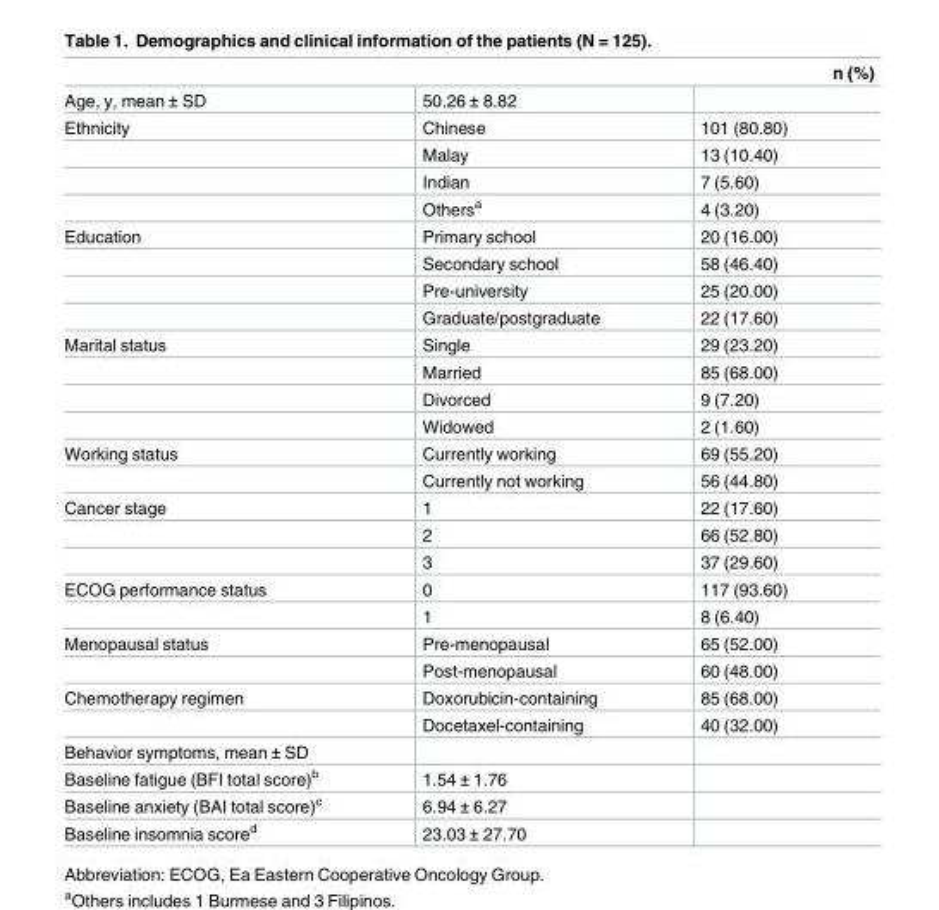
<table><thead><tr><td colspan="3">n (%)</td></tr><tr><td>Age, y, mean ± SD</td><td>50.26 ± 8.82</td><td></td></tr></thead><tbody><tr><td rowspan="4">Ethnicity</td><td>Chinese</td><td>101 (80.80)</td></tr><tr><td>Malay</td><td>13 (10.40)</td></tr><tr><td>Indian</td><td>7 (5.60)</td></tr><tr><td>Others<sup>a</sup></td><td>4 (3.20)</td></tr><tr><td rowspan="4">Education</td><td>Primary school</td><td>20 (16.00)</td></tr><tr><td>Secondary school</td><td>58 (46.40)</td></tr><tr><td>Pre-university</td><td>25 (20.00)</td></tr><tr><td>Graduate/postgraduate</td><td>22 (17.60)</td></tr><tr><td rowspan="4">Marital status</td><td>Single</td><td>29 (23.20)</td></tr><tr><td>Married</td><td>85 (68.00)</td></tr><tr><td>Divorced</td><td>9 (7.20)</td></tr><tr><td>Widowed</td><td>2 (1.60)</td></tr><tr><td rowspan="2">Working status</td><td>Currently working</td><td>69 (55.20)</td></tr><tr><td>Currently not working</td><td>56 (44.80)</td></tr><tr><td rowspan="3">Cancer stage</td><td>1</td><td>22 (17.60)</td></tr><tr><td>2</td><td>66 (52.80)</td></tr><tr><td>3</td><td>37 (29.60)</td></tr><tr><td rowspan="2">ECOG performance status</td><td>0</td><td>117 (93.60)</td></tr><tr><td>1</td><td>8 (6.40)</td></tr><tr><td rowspan="2">Menopausal status</td><td>Pre-menopausal</td><td>65 (52.00)</td></tr><tr><td>Post-menopausal</td><td>60 (48.00)</td></tr><tr><td rowspan="2">Chemotherapy regimen</td><td>Doxorubicin-containing</td><td>85 (68.00)</td></tr><tr><td>Docetaxel-containing</td><td>40 (32.00)</td></tr><tr><td colspan="3">Behavior symptoms, mean ± SD</td></tr><tr><td>Baseline fatigue (BFI total score)<sup>b</sup></td><td>1.54 ± 1.76</td><td></td></tr><tr><td>Baseline anxiety (BAI total score)<sup>c</sup></td><td>6.94 ± 6.27</td><td></td></tr><tr><td>Baseline insomnia score<sup>d</sup></td><td>23.03 ± 27.70</td><td></td></tr></tbody></table>